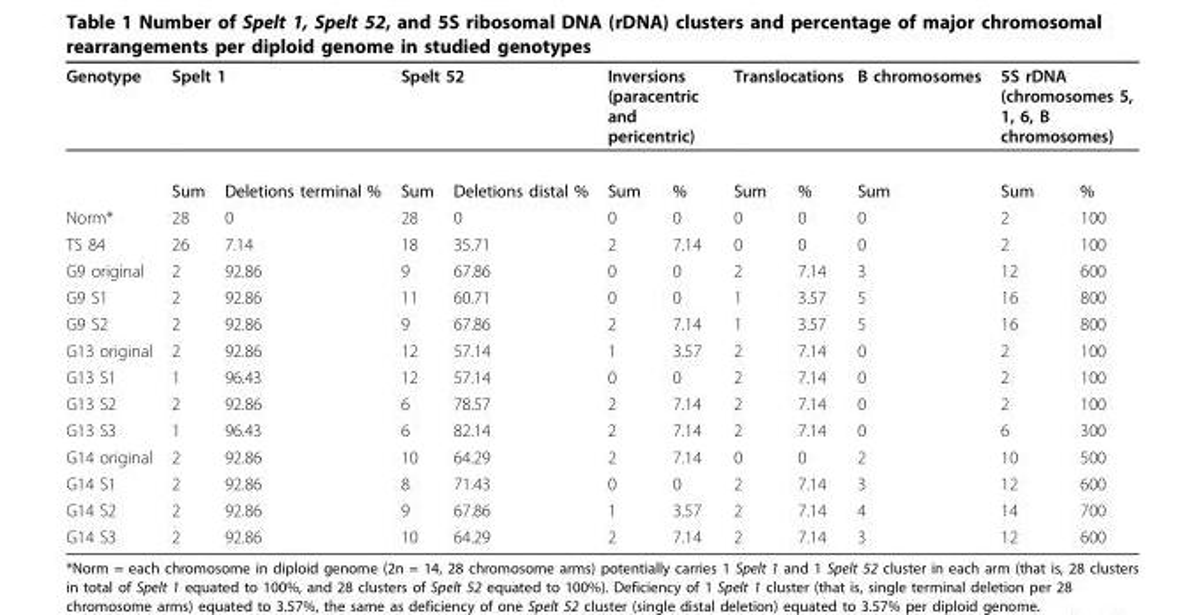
<table><thead><tr><td rowspan="2">Genotype</td><td colspan="2">Spelt 1</td><td colspan="2">Spelt 52</td><td colspan="2">Inversions (paracentric and pericentric)</td><td colspan="2">Translocations</td><td rowspan="2">B chromosomes Sum</td><td colspan="2">5S rDNA (chromosomes 5, 1, 6, B chromosomes)</td></tr><tr><td>Sum</td><td>Deletions terminal %</td><td>Sum</td><td>Deletions distal %</td><td>Sum</td><td>%</td><td>Sum</td><td>%</td><td>Sum</td><td>%</td></tr></thead><tbody><tr><td>Norm*</td><td>28</td><td>0</td><td>28</td><td>0</td><td>0</td><td>0</td><td>0</td><td>0</td><td>0</td><td>2</td><td>100</td></tr><tr><td>TS 84</td><td>26</td><td>7.14</td><td>18</td><td>35.71</td><td>2</td><td>7.14</td><td>0</td><td>0</td><td>0</td><td>2</td><td>100</td></tr><tr><td>G9 original</td><td>2</td><td>92.86</td><td>9</td><td>67.86</td><td>0</td><td>0</td><td>2</td><td>7.14</td><td>3</td><td>12</td><td>600</td></tr><tr><td>G9 S1</td><td>2</td><td>92.86</td><td>11</td><td>60.71</td><td>0</td><td>0</td><td>1</td><td>3.57</td><td>5</td><td>16</td><td>800</td></tr><tr><td>G9 S2</td><td>2</td><td>92.86</td><td>9</td><td>67.86</td><td>2</td><td>7.14</td><td>1</td><td>3.57</td><td>5</td><td>16</td><td>800</td></tr><tr><td>G13 original</td><td>2</td><td>92.86</td><td>12</td><td>57.14</td><td>1</td><td>3.57</td><td>2</td><td>7.14</td><td>0</td><td>2</td><td>100</td></tr><tr><td>G13 S1</td><td>1</td><td>96.43</td><td>12</td><td>57.14</td><td>0</td><td>0</td><td>2</td><td>7.14</td><td>0</td><td>2</td><td>100</td></tr><tr><td>G13 S2</td><td>2</td><td>92.86</td><td>6</td><td>78.57</td><td>2</td><td>7.14</td><td>2</td><td>7.14</td><td>0</td><td>2</td><td>100</td></tr><tr><td>G13 S3</td><td>1</td><td>96.43</td><td>6</td><td>82.14</td><td>2</td><td>7.14</td><td>2</td><td>7.14</td><td>0</td><td>6</td><td>300</td></tr><tr><td>G14 original</td><td>2</td><td>92.86</td><td>10</td><td>64.29</td><td>2</td><td>7.14</td><td>0</td><td>0</td><td>2</td><td>10</td><td>500</td></tr><tr><td>G14 S1</td><td>2</td><td>92.86</td><td>8</td><td>71.43</td><td>0</td><td>0</td><td>2</td><td>7.14</td><td>3</td><td>12</td><td>600</td></tr><tr><td>G14 S2</td><td>2</td><td>92.86</td><td>9</td><td>67.86</td><td>1</td><td>3.57</td><td>2</td><td>7.14</td><td>4</td><td>14</td><td>700</td></tr><tr><td>G14 S3</td><td>2</td><td>92.86</td><td>10</td><td>64.29</td><td>2</td><td>7.14</td><td>2</td><td>7.14</td><td>3</td><td>12</td><td>600</td></tr></tbody></table>